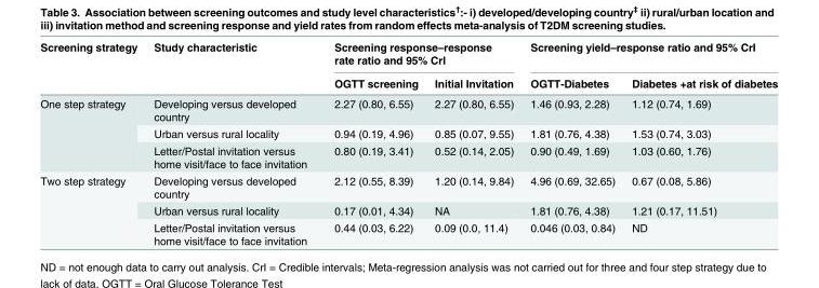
<table><thead><tr><td rowspan="2">Screening strategy</td><td rowspan="2">Study characteristic</td><td colspan="2">Screening response–response rate ratio and 95% CrI</td><td colspan="2">Screening yield–response ratio and 95% CrI</td></tr><tr><td>OGTT screening</td><td>Initial Invitation</td><td>OGTT-Diabetes</td><td>Diabetes +at risk of diabetes</td></tr></thead><tbody><tr><td rowspan="3">One step strategy</td><td>Developing versus developed country</td><td>2.27 (0.80, 6.55)</td><td>2.27 (0.80, 6.55)</td><td>1.46 (0.93, 2.28)</td><td>1.12 (0.74, 1.69)</td></tr><tr><td>Urban versus rural locality</td><td>0.94 (0.19, 4.96)</td><td>0.85 (0.07, 9.55)</td><td>1.81 (0.76, 4.38)</td><td>1.53 (0.74, 3.03)</td></tr><tr><td>Letter/Postal invitation versus home visit/face to face invitation</td><td>0.80 (0.19, 3.41)</td><td>0.52 (0.14, 2.05)</td><td>0.90 (0.49, 1.69)</td><td>1.03 (0.60, 1.76)</td></tr><tr><td rowspan="3">Two step strategy</td><td>Developing versus developed country</td><td>2.12 (0.55, 8.39)</td><td>1.20 (0.14, 9.84)</td><td>4.96 (0.69, 32.65)</td><td>0.67 (0.08, 5.86)</td></tr><tr><td>Urban versus rural locality</td><td>0.17 (0.01, 4.34)</td><td>NA</td><td>1.81 (0.76, 4.38)</td><td>1.21 (0.17, 11.51)</td></tr><tr><td>Letter/Postal invitation versus home visit/face to face invitation</td><td>0.44 (0.03, 6.22)</td><td>0.09 (0.0, 11.4)</td><td>0.046 (0.03, 0.84)</td><td>ND</td></tr></tbody></table>